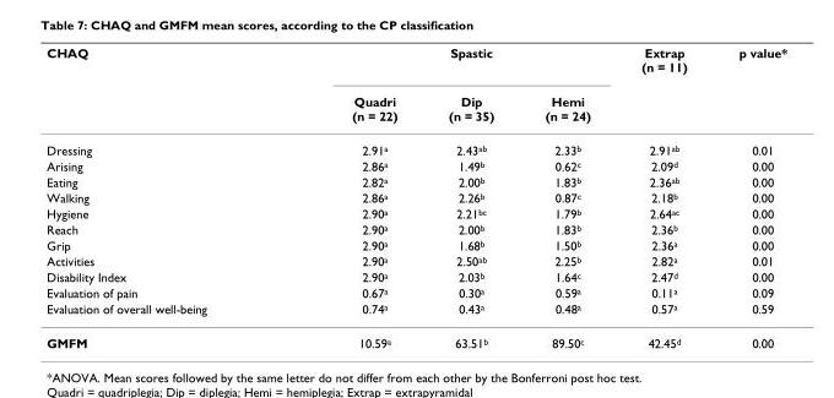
<table><thead><tr><td rowspan="2">CHAQ</td><td colspan="3">Spastic</td><td rowspan="2">Extrap (n = 11)</td><td rowspan="2">p value*</td></tr><tr><td>Quadri (n = 22)</td><td>Dip (n = 35)</td><td>Hemi (n = 24)</td></tr></thead><tbody><tr><td>Dressing</td><td>2.91<sup>a</sup></td><td>2.43<sup>ab</sup></td><td>2.33<sup>b</sup></td><td>2.91<sup>ab</sup></td><td>0.01</td></tr><tr><td>Arising</td><td>2.86<sup>a</sup></td><td>1.49<sup>b</sup></td><td>0.62<sup>c</sup></td><td>2.09<sup>d</sup></td><td>0.00</td></tr><tr><td>Eating</td><td>2.82<sup>a</sup></td><td>2.00<sup>b</sup></td><td>1.83<sup>b</sup></td><td>2.36<sup>ab</sup></td><td>0.00</td></tr><tr><td>Walking</td><td>2.86<sup>a</sup></td><td>2.26<sup>b</sup></td><td>0.87<sup>c</sup></td><td>2.18<sup>b</sup></td><td>0.00</td></tr><tr><td>Hygiene</td><td>2.90<sup>a</sup></td><td>2.21<sup>bc</sup></td><td>1.79<sup>b</sup></td><td>2.64<sup>ac</sup></td><td>0.00</td></tr><tr><td>Reach</td><td>2.90<sup>a</sup></td><td>2.00<sup>b</sup></td><td>1.83<sup>b</sup></td><td>2.36<sup>b</sup></td><td>0.00</td></tr><tr><td>Grip</td><td>2.90<sup>a</sup></td><td>1.68<sup>b</sup></td><td>1.50<sup>b</sup></td><td>2.36<sup>a</sup></td><td>0.00</td></tr><tr><td>Activities</td><td>2.90<sup>a</sup></td><td>2.50<sup>ab</sup></td><td>2.25<sup>b</sup></td><td>2.82<sup>a</sup></td><td>0.01</td></tr><tr><td>Disability Index</td><td>2.90<sup>a</sup></td><td>2.03<sup>b</sup></td><td>1.64<sup>c</sup></td><td>2.47<sup>d</sup></td><td>0.00</td></tr><tr><td>Evaluation of pain</td><td>0.67<sup>a</sup></td><td>0.30<sup>a</sup></td><td>0.59<sup>a</sup></td><td>0.11<sup>a</sup></td><td>0.09</td></tr><tr><td>Evaluation of overall well-being</td><td>0.74<sup>a</sup></td><td>0.43<sup>a</sup></td><td>0.48<sup>a</sup></td><td>0.57<sup>a</sup></td><td>0.59</td></tr><tr><td>GMFM</td><td>10.59<sup>a</sup></td><td>63.51<sup>b</sup></td><td>89.50<sup>c</sup></td><td>42.45<sup>d</sup></td><td>0.00</td></tr></tbody></table>